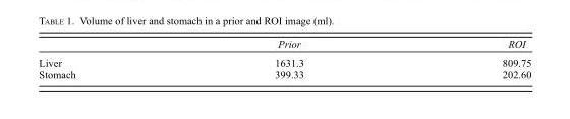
<table><thead><tr><td></td><td>Prior</td><td>ROI</td></tr></thead><tbody><tr><td>Liver</td><td>1631.3</td><td>809.75</td></tr><tr><td>Stomach</td><td>399.33</td><td>202.60</td></tr></tbody></table>